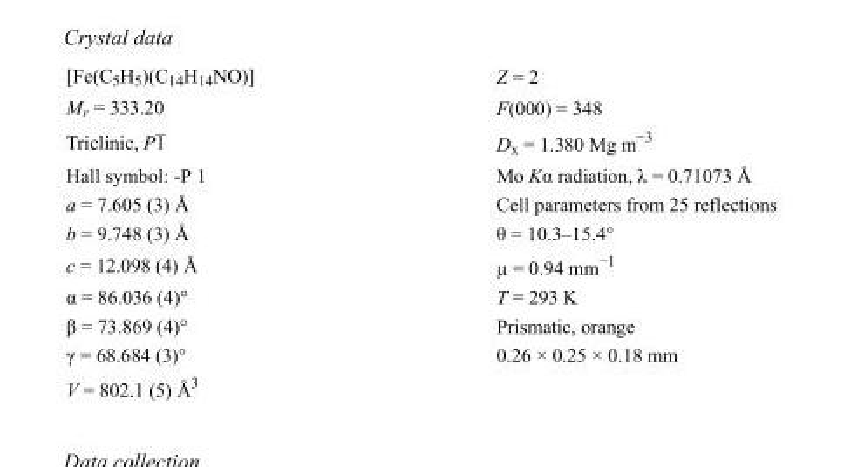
<table><tbody><tr><td>[Fe(C<sub>5</sub>H<sub>5</sub>)(C<sub>14</sub>H<sub>14</sub>NO)]</td><td>Z = 2</td></tr><tr><td>M<sub>r</sub> = 333.20</td><td>F(000) = 348</td></tr><tr><td>Triclinic, P1</td><td>D<sub>x</sub> = 1.380 Mg m<sup>−3</sup></td></tr><tr><td>Hall symbol: -P 1</td><td>Mo Kα radiation, λ = 0.71073 Å</td></tr><tr><td>a = 7.605 (3) Å</td><td>Cell parameters from 25 reflections</td></tr><tr><td>b = 9.748 (3) Å</td><td>θ = 10.3–15.4°</td></tr><tr><td>c = 12.098 (4) Å</td><td>µ = 0.94 mm<sup>−1</sup></td></tr><tr><td>α = 86.036 (4)°</td><td>T = 293 K</td></tr><tr><td>β = 73.869 (4)°</td><td>Prismatic, orange</td></tr><tr><td>γ = 68.684 (3)°</td><td>0.26 × 0.25 × 0.18 mm</td></tr><tr><td>V = 802.1 (5) Å<sup>3</sup></td><td></td></tr></tbody></table>